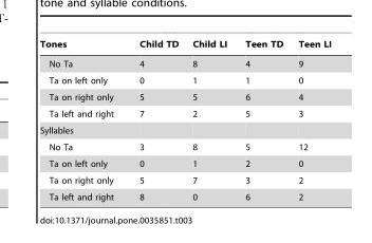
<table><thead><tr><td>Tones</td><td>Child TD</td><td>Child LI</td><td>Teen TD</td><td>Teen LI</td></tr></thead><tbody><tr><td>No Ta</td><td>4</td><td>8</td><td>4</td><td>9</td></tr><tr><td>Ta on left only</td><td>0</td><td>1</td><td>1</td><td>0</td></tr><tr><td>Ta on right only</td><td>5</td><td>5</td><td>6</td><td>4</td></tr><tr><td>Ta left and right</td><td>7</td><td>2</td><td>5</td><td>3</td></tr><tr><td colspan="5">Syllables</td></tr><tr><td>No Ta</td><td>3</td><td>8</td><td>5</td><td>12</td></tr><tr><td>Ta on left only</td><td>0</td><td>1</td><td>2</td><td>0</td></tr><tr><td>Ta on right only</td><td>5</td><td>7</td><td>3</td><td>2</td></tr><tr><td>Ta left and right</td><td>8</td><td>0</td><td>6</td><td>2</td></tr></tbody></table>